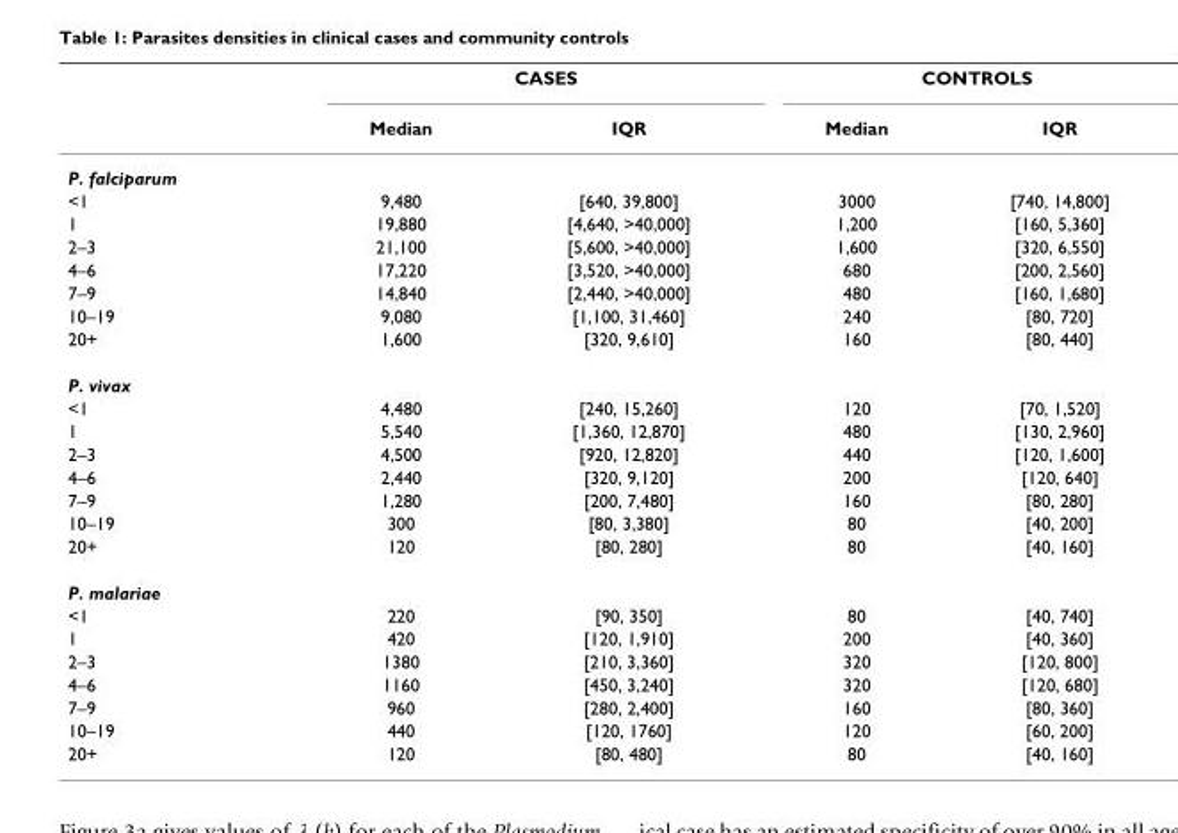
<table><thead><tr><td rowspan="2"></td><td colspan="2">CASES</td><td colspan="2">CONTROLS</td></tr><tr><td>Median</td><td>IQR</td><td>Median</td><td>IQR</td></tr></thead><tbody><tr><td colspan="5">P. falciparum</td></tr><tr><td>&lt;1</td><td>9,480</td><td>[640, 39,800]</td><td>3000</td><td>[740, 14,800]</td></tr><tr><td>1</td><td>19,880</td><td>[4,640, &gt;40,000]</td><td>1,200</td><td>[160, 5,360]</td></tr><tr><td>2–3</td><td>21,100</td><td>[5,600, &gt;40,000]</td><td>1,600</td><td>[320, 6,550]</td></tr><tr><td>4–6</td><td>17,220</td><td>[3,520, &gt;40,000]</td><td>680</td><td>[200, 2,560]</td></tr><tr><td>7–9</td><td>14,840</td><td>[2,440, &gt;40,000]</td><td>480</td><td>[160, 1,680]</td></tr><tr><td>10–19</td><td>9,080</td><td>[1,100, 31,460]</td><td>240</td><td>[80, 720]</td></tr><tr><td>20+</td><td>1,600</td><td>[320, 9,610]</td><td>160</td><td>[80, 440]</td></tr><tr><td colspan="5">P. vivax</td></tr><tr><td>&lt;1</td><td>4,480</td><td>[240, 15,260]</td><td>120</td><td>[70, 1,520]</td></tr><tr><td>1</td><td>5,540</td><td>[1,360, 12,870]</td><td>480</td><td>[130, 2,960]</td></tr><tr><td>2–3</td><td>4,500</td><td>[920, 12,820]</td><td>440</td><td>[120, 1,600]</td></tr><tr><td>4–6</td><td>2,440</td><td>[320, 9,120]</td><td>200</td><td>[120, 640]</td></tr><tr><td>7–9</td><td>1,280</td><td>[200, 7,480]</td><td>160</td><td>[80, 280]</td></tr><tr><td>10–19</td><td>300</td><td>[80, 3,380]</td><td>80</td><td>[40, 200]</td></tr><tr><td>20+</td><td>120</td><td>[80, 280]</td><td>80</td><td>[40, 160]</td></tr><tr><td colspan="5">P. malariae</td></tr><tr><td>&lt;1</td><td>220</td><td>[90, 350]</td><td>80</td><td>[40, 740]</td></tr><tr><td>1</td><td>420</td><td>[120, 1,910]</td><td>200</td><td>[40, 360]</td></tr><tr><td>2–3</td><td>1380</td><td>[210, 3,360]</td><td>320</td><td>[120, 800]</td></tr><tr><td>4–6</td><td>1160</td><td>[450, 3,240]</td><td>320</td><td>[120, 680]</td></tr><tr><td>7–9</td><td>960</td><td>[280, 2,400]</td><td>160</td><td>[80, 360]</td></tr><tr><td>10–19</td><td>440</td><td>[120, 1760]</td><td>120</td><td>[60, 200]</td></tr><tr><td>20+</td><td>120</td><td>[80, 480]</td><td>80</td><td>[40, 160]</td></tr></tbody></table>